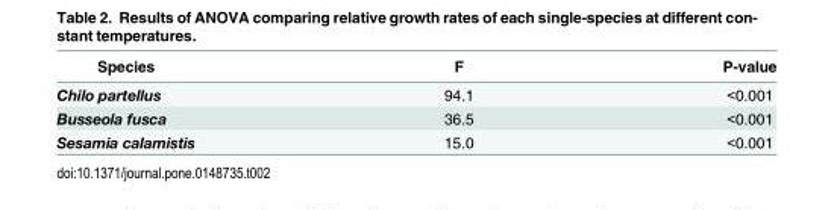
<table><thead><tr><td>Species</td><td>F</td><td>P-value</td></tr></thead><tbody><tr><td>Chilo partellus</td><td>94.1</td><td>&lt;0.001</td></tr><tr><td>Busseola fusca</td><td>36.5</td><td>&lt;0.001</td></tr><tr><td>Sesamia calamistis</td><td>15.0</td><td>&lt;0.001</td></tr></tbody></table>